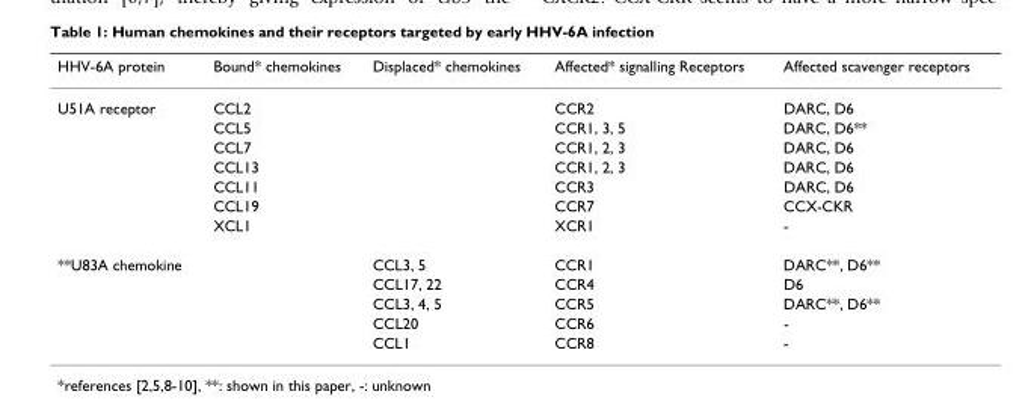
<table><thead><tr><td>HHV-6A protein</td><td>Bound* chemokines</td><td>Displaced* chemokines</td><td>Affected* signalling Receptors</td><td>Affected scavenger receptors</td></tr></thead><tbody><tr><td rowspan="7">U51A receptor</td><td>CCL2</td><td></td><td>CCR2</td><td>DARC, D6</td></tr><tr><td>CCL5</td><td></td><td>CCR1, 3, 5</td><td>DARC, D6**</td></tr><tr><td>CCL7</td><td></td><td>CCR1, 2, 3</td><td>DARC, D6</td></tr><tr><td>CCL13</td><td></td><td>CCR1, 2, 3</td><td>DARC, D6</td></tr><tr><td>CCL11</td><td></td><td>CCR3</td><td>DARC, D6</td></tr><tr><td>CCL19</td><td></td><td>CCR7</td><td>CCX-CKR</td></tr><tr><td>XCL1</td><td></td><td>XCR1</td><td>-</td></tr><tr><td rowspan="5">**U83A chemokine</td><td></td><td>CCL3, 5</td><td>CCR1</td><td>DARC**, D6**</td></tr><tr><td></td><td>CCL17, 22</td><td>CCR4</td><td>D6</td></tr><tr><td></td><td>CCL3, 4, 5</td><td>CCR5</td><td>DARC**, D6**</td></tr><tr><td></td><td>CCL20</td><td>CCR6</td><td>-</td></tr><tr><td></td><td>CCL1</td><td>CCR8</td><td>-</td></tr></tbody></table>